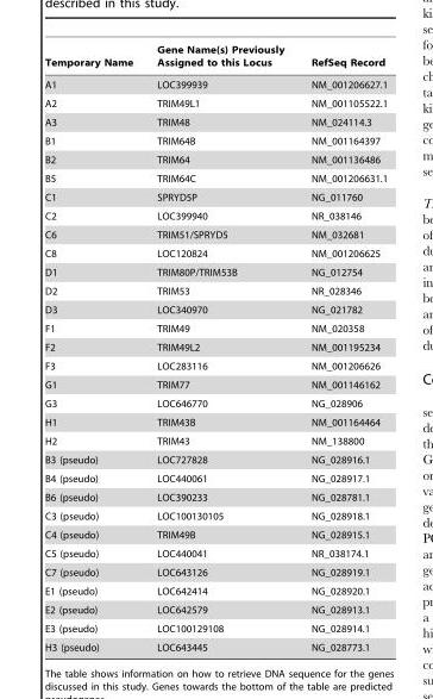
<table><thead><tr><td>Temporary Name</td><td>Gene Name(s) Previously Assigned to this Locus</td><td>RefSeq Record</td></tr></thead><tbody><tr><td>A1</td><td>LOC399939</td><td>NM_001206627.1</td></tr><tr><td>A2</td><td>TRIM49L1</td><td>NM_001105522.1</td></tr><tr><td>A3</td><td>TRIM48</td><td>NM_024114.3</td></tr><tr><td>B1</td><td>TRIM64B</td><td>NM_001164397</td></tr><tr><td>B2</td><td>TRIM64</td><td>NM_001136486</td></tr><tr><td>B5</td><td>TRIM64C</td><td>NM_001206631.1</td></tr><tr><td>C1</td><td>SPRYD5P</td><td>NG_011760</td></tr><tr><td>C2</td><td>LOC399940</td><td>NR_038146</td></tr><tr><td>C6</td><td>TRIM51/SPRYD5</td><td>NM_032681</td></tr><tr><td>C8</td><td>LOC120824</td><td>NM_001206625</td></tr><tr><td>D1</td><td>TRIM80P/TRIM53B</td><td>NG_012754</td></tr><tr><td>D2</td><td>TRIM53</td><td>NR_028346</td></tr><tr><td>D3</td><td>LOC340970</td><td>NG_021782</td></tr><tr><td>F1</td><td>TRIM49</td><td>NM_020358</td></tr><tr><td>F2</td><td>TRIM49L2</td><td>NM_001195234</td></tr><tr><td>F3</td><td>LOC283116</td><td>NM_001206626</td></tr><tr><td>G1</td><td>TRIM77</td><td>NM_001146162</td></tr><tr><td>G3</td><td>LOC646770</td><td>NG_028906</td></tr><tr><td>H1</td><td>TRIM43B</td><td>NM_001164464</td></tr><tr><td>H2</td><td>TRIM43</td><td>NM_138800</td></tr><tr><td>B3 (pseudo)</td><td>LOC727828</td><td>NG_028916.1</td></tr><tr><td>B4 (pseudo)</td><td>LOC440061</td><td>NG_028917.1</td></tr><tr><td>B6 (pseudo)</td><td>LOC390233</td><td>NG_028781.1</td></tr><tr><td>C3 (pseudo)</td><td>LOC100130105</td><td>NG_028918.1</td></tr><tr><td>C4 (pseudo)</td><td>TRIM49B</td><td>NG_028915.1</td></tr><tr><td>C5 (pseudo)</td><td>LOC440041</td><td>NR_038174.1</td></tr><tr><td>C7 (pseudo)</td><td>LOC643126</td><td>NG_028919.1</td></tr><tr><td>E1 (pseudo)</td><td>LOC642414</td><td>NG_028920.1</td></tr><tr><td>E2 (pseudo)</td><td>LOC642579</td><td>NG_028913.1</td></tr><tr><td>E3 (pseudo)</td><td>LOC100129108</td><td>NG_028914.1</td></tr><tr><td>H3 (pseudo)</td><td>LOC643445</td><td>NG_028773.1</td></tr></tbody></table>